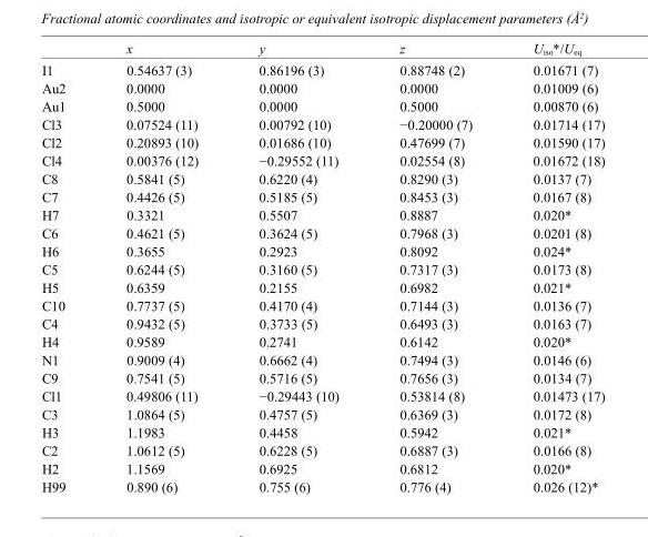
<table><thead><tr><td></td><td>x</td><td>y</td><td>z</td><td>U<sub>iso</sub>*/U<sub>eq</sub></td></tr></thead><tbody><tr><td>I1</td><td>0.54637 (3)</td><td>0.86196 (3)</td><td>0.88748 (2)</td><td>0.01671 (7)</td></tr><tr><td>Au2</td><td>0.0000</td><td>0.0000</td><td>0.0000</td><td>0.01009 (6)</td></tr><tr><td>Au1</td><td>0.5000</td><td>0.0000</td><td>0.5000</td><td>0.00870 (6)</td></tr><tr><td>Cl3</td><td>0.07524 (11)</td><td>0.00792 (10)</td><td>−0.20000 (7)</td><td>0.01714 (17)</td></tr><tr><td>Cl2</td><td>0.20893 (10)</td><td>0.01686 (10)</td><td>0.47699 (7)</td><td>0.01590 (17)</td></tr><tr><td>Cl4</td><td>0.00376 (12)</td><td>−0.29552 (11)</td><td>0.02554 (8)</td><td>0.01672 (18)</td></tr><tr><td>C8</td><td>0.5841 (5)</td><td>0.6220 (4)</td><td>0.8290 (3)</td><td>0.0137 (7)</td></tr><tr><td>C7</td><td>0.4426 (5)</td><td>0.5185 (5)</td><td>0.8453 (3)</td><td>0.0167 (8)</td></tr><tr><td>H7</td><td>0.3321</td><td>0.5507</td><td>0.8887</td><td>0.020*</td></tr><tr><td>C6</td><td>0.4621 (5)</td><td>0.3624 (5)</td><td>0.7968 (3)</td><td>0.0201 (8)</td></tr><tr><td>H6</td><td>0.3655</td><td>0.2923</td><td>0.8092</td><td>0.024*</td></tr><tr><td>C5</td><td>0.6244 (5)</td><td>0.3160 (5)</td><td>0.7317 (3)</td><td>0.0173 (8)</td></tr><tr><td>H5</td><td>0.6359</td><td>0.2155</td><td>0.6982</td><td>0.021*</td></tr><tr><td>C10</td><td>0.7737 (5)</td><td>0.4170 (4)</td><td>0.7144 (3)</td><td>0.0136 (7)</td></tr><tr><td>C4</td><td>0.9432 (5)</td><td>0.3733 (5)</td><td>0.6493 (3)</td><td>0.0163 (7)</td></tr><tr><td>H4</td><td>0.9589</td><td>0.2741</td><td>0.6142</td><td>0.020*</td></tr><tr><td>N1</td><td>0.9009 (4)</td><td>0.6662 (4)</td><td>0.7494 (3)</td><td>0.0146 (6)</td></tr><tr><td>C9</td><td>0.7541 (5)</td><td>0.5716 (5)</td><td>0.7656 (3)</td><td>0.0134 (7)</td></tr><tr><td>Cl1</td><td>0.49806 (11)</td><td>−0.29443 (10)</td><td>0.53814 (8)</td><td>0.01473 (17)</td></tr><tr><td>C3</td><td>1.0864 (5)</td><td>0.4757 (5)</td><td>0.6369 (3)</td><td>0.0172 (8)</td></tr><tr><td>H3</td><td>1.1983</td><td>0.4458</td><td>0.5942</td><td>0.021*</td></tr><tr><td>C2</td><td>1.0612 (5)</td><td>0.6228 (5)</td><td>0.6887 (3)</td><td>0.0166 (8)</td></tr><tr><td>H2</td><td>1.1569</td><td>0.6925</td><td>0.6812</td><td>0.020*</td></tr><tr><td>H99</td><td>0.890 (6)</td><td>0.755 (6)</td><td>0.776 (4)</td><td>0.026 (12)*</td></tr></tbody></table>